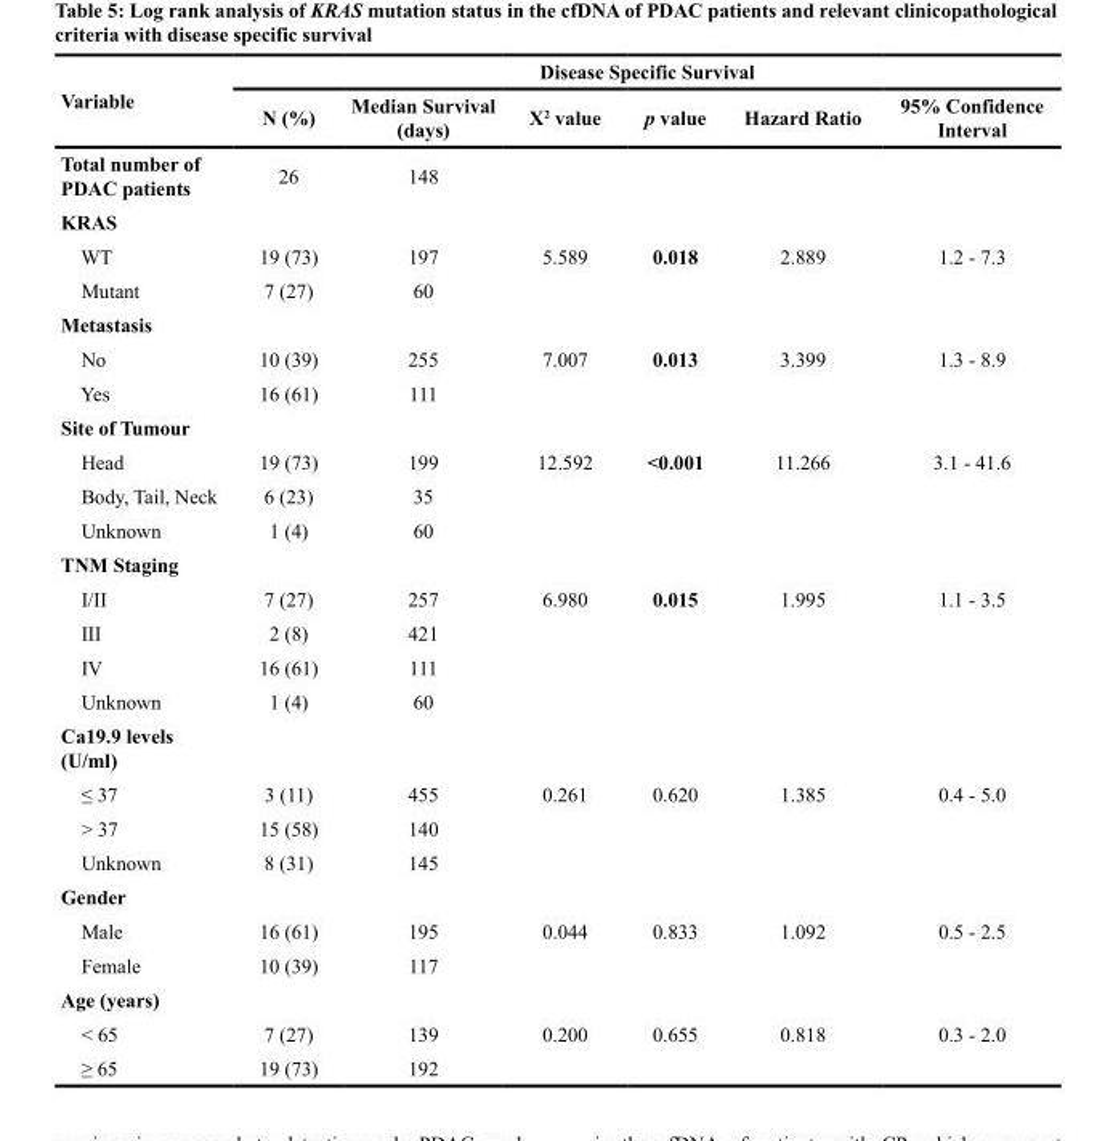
<table><thead><tr><td rowspan="2">Variable</td><td colspan="6">Disease Specific Survival</td></tr><tr><td>N (%)</td><td>Median Survival (days)</td><td>Χ2 value</td><td>p value</td><td>Hazard Ratio</td><td>95% Confidence Interval</td></tr></thead><tbody><tr><td>Total number of PDAC patients</td><td>26</td><td>148</td><td></td><td></td><td></td><td></td></tr><tr><td colspan="7">KRAS</td></tr><tr><td>WT</td><td>19 (73)</td><td>197</td><td>5.589</td><td>0.018</td><td>2.889</td><td>1.2 - 7.3</td></tr><tr><td>Mutant</td><td>7 (27)</td><td>60</td><td></td><td></td><td></td><td></td></tr><tr><td colspan="7">Metastasis</td></tr><tr><td>No</td><td>10 (39)</td><td>255</td><td>7.007</td><td>0.013</td><td>3.399</td><td>1.3 - 8.9</td></tr><tr><td>Yes</td><td>16 (61)</td><td>111</td><td></td><td></td><td></td><td></td></tr><tr><td colspan="7">Site of Tumour</td></tr><tr><td>Head</td><td>19 (73)</td><td>199</td><td>12.592</td><td>&lt;0.001</td><td>11.266</td><td>3.1 - 41.6</td></tr><tr><td>Body, Tail, Neck</td><td>6 (23)</td><td>35</td><td></td><td></td><td></td><td></td></tr><tr><td>Unknown</td><td>1 (4)</td><td>60</td><td></td><td></td><td></td><td></td></tr><tr><td colspan="7">TNM Staging</td></tr><tr><td>I/II</td><td>7 (27)</td><td>257</td><td>6.980</td><td>0.015</td><td>1.995</td><td>1.1 - 3.5</td></tr><tr><td>III</td><td>2 (8)</td><td>421</td><td></td><td></td><td></td><td></td></tr><tr><td>IV</td><td>16 (61)</td><td>111</td><td></td><td></td><td></td><td></td></tr><tr><td>Unknown</td><td>1 (4)</td><td>60</td><td></td><td></td><td></td><td></td></tr><tr><td colspan="7">Ca19.9 levels (U/ml)</td></tr><tr><td>≤ 37</td><td>3 (11)</td><td>455</td><td>0.261</td><td>0.620</td><td>1.385</td><td>0.4 - 5.0</td></tr><tr><td>&gt; 37</td><td>15 (58)</td><td>140</td><td></td><td></td><td></td><td></td></tr><tr><td>Unknown</td><td>8 (31)</td><td>145</td><td></td><td></td><td></td><td></td></tr><tr><td colspan="7">Gender</td></tr><tr><td>Male</td><td>16 (61)</td><td>195</td><td>0.044</td><td>0.833</td><td>1.092</td><td>0.5 - 2.5</td></tr><tr><td>Female</td><td>10 (39)</td><td>117</td><td></td><td></td><td></td><td></td></tr><tr><td colspan="7">Age (years)</td></tr><tr><td>&lt; 65</td><td>7 (27)</td><td>139</td><td>0.200</td><td>0.655</td><td>0.818</td><td>0.3 - 2.0</td></tr><tr><td>≥ 65</td><td>19 (73)</td><td>192</td><td></td><td></td><td></td><td></td></tr></tbody></table>